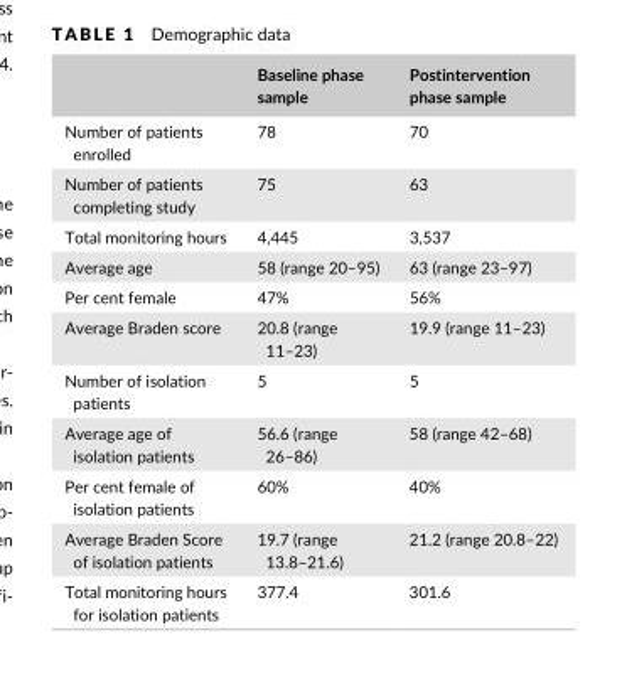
<table><thead><tr><td></td><td>Baseline phase sample</td><td>Postintervention phase sample</td></tr></thead><tbody><tr><td>Number of patients enrolled</td><td>78</td><td>70</td></tr><tr><td>Number of patients completing study</td><td>75</td><td>63</td></tr><tr><td>Total monitoring hours</td><td>4,445</td><td>3,537</td></tr><tr><td>Average age</td><td>58 (range 20–95)</td><td>63 (range 23–97)</td></tr><tr><td>Per cent female</td><td>47%</td><td>56%</td></tr><tr><td>Average Braden score</td><td>20.8 (range 11–23)</td><td>19.9 (range 11–23)</td></tr><tr><td>Number of isolation patients</td><td>5</td><td>5</td></tr><tr><td>Average age of isolation patients</td><td>56.6 (range 26–86)</td><td>58 (range 42–68)</td></tr><tr><td>Per cent female of isolation patients</td><td>60%</td><td>40%</td></tr><tr><td>Average Braden Score of isolation patients</td><td>19.7 (range 13.8–21.6)</td><td>21.2 (range 20.8–22)</td></tr><tr><td>Total monitoring hours for isolation patients</td><td>377.4</td><td>301.6</td></tr></tbody></table>